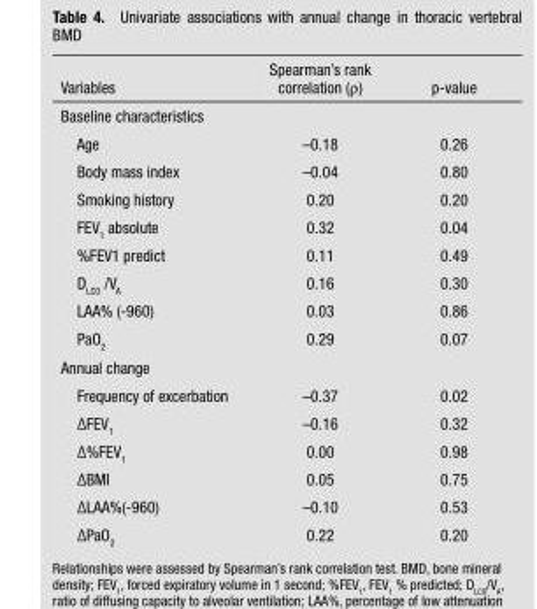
<table><thead><tr><td>Variables</td><td>Spearman’s rank correlation (ρ)</td><td>p-value</td></tr></thead><tbody><tr><td colspan="3">Baseline characteristics</td></tr><tr><td>Age</td><td>–0.18</td><td>0.26</td></tr><tr><td>Body mass index</td><td>–0.04</td><td>0.80</td></tr><tr><td>Smoking history</td><td>0.20</td><td>0.20</td></tr><tr><td>FEV<sub>1</sub> absolute</td><td>0.32</td><td>0.04</td></tr><tr><td>%FEV1 predict</td><td>0.11</td><td>0.49</td></tr><tr><td>D<sub>LCO</sub> /V<sub>A</sub></td><td>0.16</td><td>0.30</td></tr><tr><td>LAA% (-960)</td><td>0.03</td><td>0.86</td></tr><tr><td>PaO<sub>2</sub></td><td>0.29</td><td>0.07</td></tr><tr><td colspan="3">Annual change</td></tr><tr><td>Frequency of excerbation</td><td>–0.37</td><td>0.02</td></tr><tr><td>ΔFEV<sub>1</sub></td><td>–0.16</td><td>0.32</td></tr><tr><td>Δ%FEV<sub>1</sub></td><td>0.00</td><td>0.98</td></tr><tr><td>ΔBMI</td><td>0.05</td><td>0.75</td></tr><tr><td>ΔLAA%(-960)</td><td>–0.10</td><td>0.53</td></tr><tr><td>ΔPaO<sub>2</sub></td><td>0.22</td><td>0.20</td></tr></tbody></table>